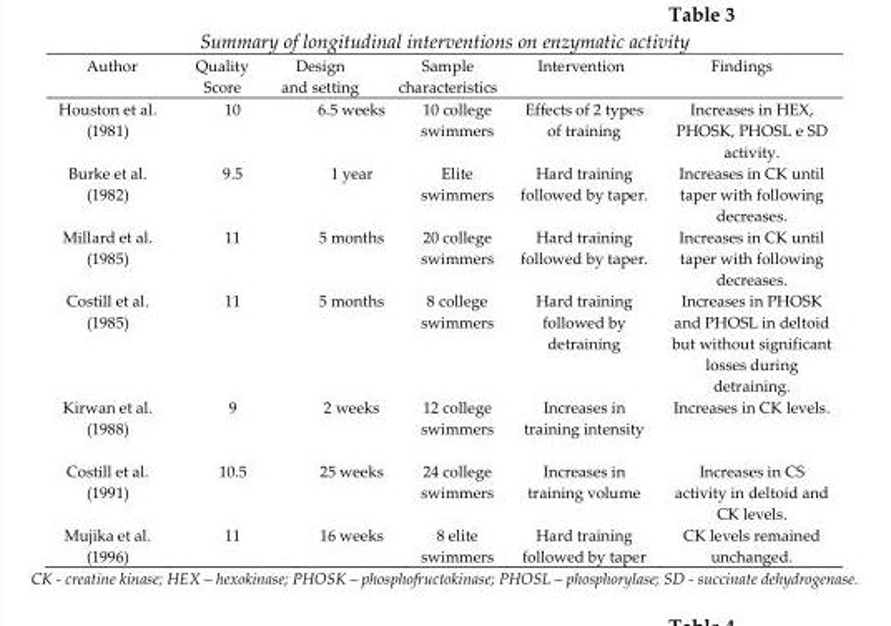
<table><thead><tr><td>Author</td><td>Quality Score</td><td>Design and setting</td><td>Sample characteristics</td><td>Intervention</td><td>Findings</td></tr></thead><tbody><tr><td>Houston et al. (1981)</td><td>10</td><td>6.5 weeks</td><td>10 college swimmers</td><td>Effects of 2 types of training</td><td>Increases in HEX, PHOSK, PHOSL e SD activity.</td></tr><tr><td>Burke et al. (1982)</td><td>9.5</td><td>1 year</td><td>Elite swimmers</td><td>Hard training followed by taper.</td><td>Increases in CK until taper with following decreases.</td></tr><tr><td>Millard et al. (1985)</td><td>11</td><td>5 months</td><td>20 college swimmers</td><td>Hard training followed by taper.</td><td>Increases in CK until taper with following decreases.</td></tr><tr><td>Costill et al. (1985)</td><td>11</td><td>5 months</td><td>8 college swimmers</td><td>Hard training followed by detraining</td><td>Increases in PHOSK and PHOSL in deltoid but without significant losses during detraining.</td></tr><tr><td>Kirwan et al. (1988)</td><td>9</td><td>2 weeks</td><td>12 college swimmers</td><td>Increases in training intensity</td><td>Increases in CK levels.</td></tr><tr><td>Costill et al. (1991)</td><td>10.5</td><td>25 weeks</td><td>24 college swimmers</td><td>Increases in training volume</td><td>Increases in CS activity in deltoid and CK levels.</td></tr><tr><td>Mujika et al. (1996)</td><td>11</td><td>16 weeks</td><td>8 elite swimmers</td><td>Hard training followed by taper</td><td>CK levels remained unchanged.</td></tr></tbody></table>